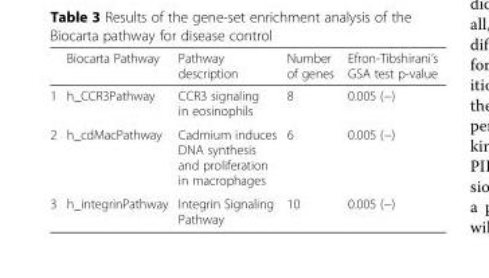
<table><thead><tr><td></td><td>Biocarta Pathway</td><td>Pathway description</td><td>Number of genes</td><td>Efron-Tibshirani’s GSA test p-value</td></tr></thead><tbody><tr><td>1</td><td>h_CCR3Pathway</td><td>CCR3 signaling in eosinophils</td><td>8</td><td>0.005 (−)</td></tr><tr><td>2</td><td>h_cdMacPathway</td><td>Cadmium induces DNA synthesis and proliferation in macrophages</td><td>6</td><td>0.005 (−)</td></tr><tr><td>3</td><td>h_integrinPathway</td><td>Integrin Signaling Pathway</td><td>10</td><td>0.005 (−)</td></tr></tbody></table>